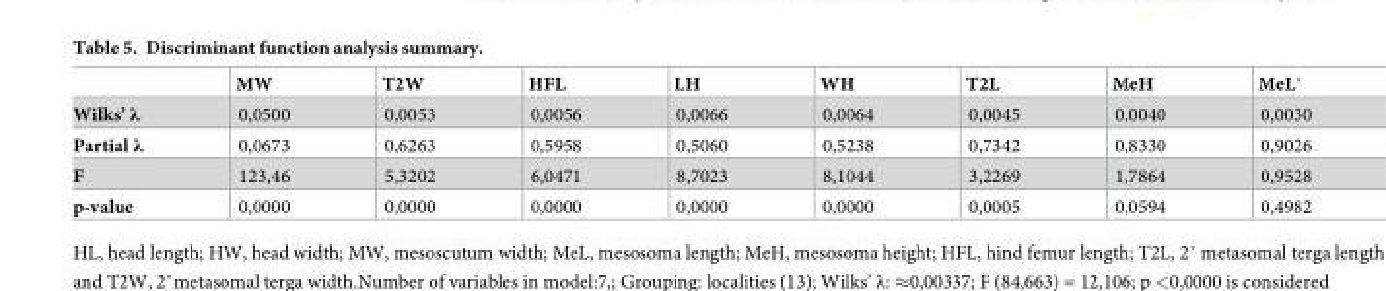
<table><thead><tr><td></td><td>MW</td><td>T2W</td><td>HFL</td><td>LH</td><td>WH</td><td>T2L</td><td>MeH</td><td>MeL*</td></tr></thead><tbody><tr><td>Wilks’ λ</td><td>0,0500</td><td>0,0053</td><td>0,0056</td><td>0,0066</td><td>0,0064</td><td>0,0045</td><td>0,0040</td><td>0,0030</td></tr><tr><td>Partial λ</td><td>0,0673</td><td>0,6263</td><td>0,5958</td><td>0,5060</td><td>0,5238</td><td>0,7342</td><td>0,8330</td><td>0,9026</td></tr><tr><td>F</td><td>123,46</td><td>5,3202</td><td>6,0471</td><td>8,7023</td><td>8,1044</td><td>3,2269</td><td>1,7864</td><td>0,9528</td></tr><tr><td>p-value</td><td>0,0000</td><td>0,0000</td><td>0,0000</td><td>0,0000</td><td>0,0000</td><td>0,0005</td><td>0,0594</td><td>0,4982</td></tr></tbody></table>